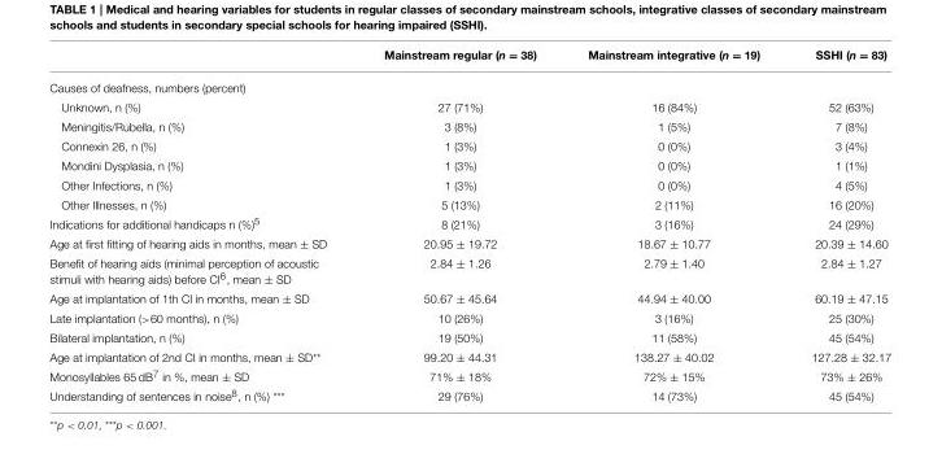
<table><thead><tr><td></td><td>Mainstream regular (n = 38)</td><td>Mainstream integrative (n = 19)</td><td>SSHI (n = 83)</td></tr></thead><tbody><tr><td colspan="4">Causes of deafness, numbers (percent)</td></tr><tr><td>Unknown, n (%)</td><td>27 (71%)</td><td>16 (84%)</td><td>52 (63%)</td></tr><tr><td>Meningitis/Rubella, n (%)</td><td>3 (8%)</td><td>1 (5%)</td><td>7 (8%)</td></tr><tr><td>Connexin 26, n (%)</td><td>1 (3%)</td><td>0 (0%)</td><td>3 (4%)</td></tr><tr><td>Mondini Dysplasia, n (%)</td><td>1 (3%)</td><td>0 (0%)</td><td>1 (1%)</td></tr><tr><td>Other Infections, n (%)</td><td>1 (3%)</td><td>0 (0%)</td><td>4 (5%)</td></tr><tr><td>Other Illnesses, n (%)</td><td>5 (13%)</td><td>2 (11%)</td><td>16 (20%)</td></tr><tr><td>Indications for additional handicaps n (%)<sup>5</sup></td><td>8 (21%)</td><td>3 (16%)</td><td>24 (29%)</td></tr><tr><td>Age at first fitting of hearing aids in months, mean ± SD</td><td>20.95 ± 19.72</td><td>18.67 ± 10.77</td><td>20.39 ± 14.60</td></tr><tr><td>Benefit of hearing aids (minimal perception of acoustic stimuli with hearing aids) before CI<sup>6</sup>, mean ± SD</td><td>2.84 ± 1.26</td><td>2.79 ± 1.40</td><td>2.84 ± 1.27</td></tr><tr><td>Age at implantation of 1th CI in months, mean ± SD</td><td>50.67 ± 45.64</td><td>44.94 ± 40.00</td><td>60.19 ± 47.15</td></tr><tr><td>Late implantation (&gt;60 months), n (%)</td><td>10 (26%)</td><td>3 (16%)</td><td>25 (30%)</td></tr><tr><td>Bilateral implantation, n (%)</td><td>19 (50%)</td><td>11 (58%)</td><td>45 (54%)</td></tr><tr><td>Age at implantation of 2nd CI in months, mean ± SD**</td><td>99.20 ± 44.31</td><td>138.27 ± 40.02</td><td>127.28 ± 32.17</td></tr><tr><td>Monosyllables 65 dB<sup>7</sup> in %, mean ± SD</td><td>71% ± 18%</td><td>72% ± 15%</td><td>73% ± 26%</td></tr><tr><td>Understanding of sentences in noise<sup>8</sup>, n (%) ***</td><td>29 (76%)</td><td>14 (73%)</td><td>45 (54%)</td></tr></tbody></table>